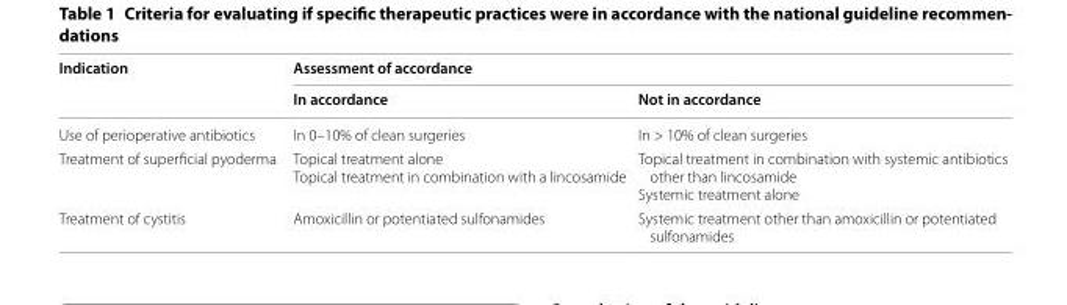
<table><thead><tr><td rowspan="2">Indication</td><td colspan="2">Assessment of accordance</td></tr><tr><td>In accordance</td><td>Not in accordance</td></tr></thead><tbody><tr><td>Use of perioperative antibiotics</td><td>In 0–10% of clean surgeries</td><td>In &gt; 10% of clean surgeries</td></tr><tr><td>Treatment of superficial pyoderma</td><td>Topical treatment alone Topical treatment in combination with a lincosamide</td><td>Topical treatment in combination with systemic antibiotics other than lincosamide Systemic treatment alone</td></tr><tr><td>Treatment of cystitis</td><td>Amoxicillin or potentiated sulfonamides</td><td>Systemic treatment other than amoxicillin or potentiated sulfonamides</td></tr></tbody></table>